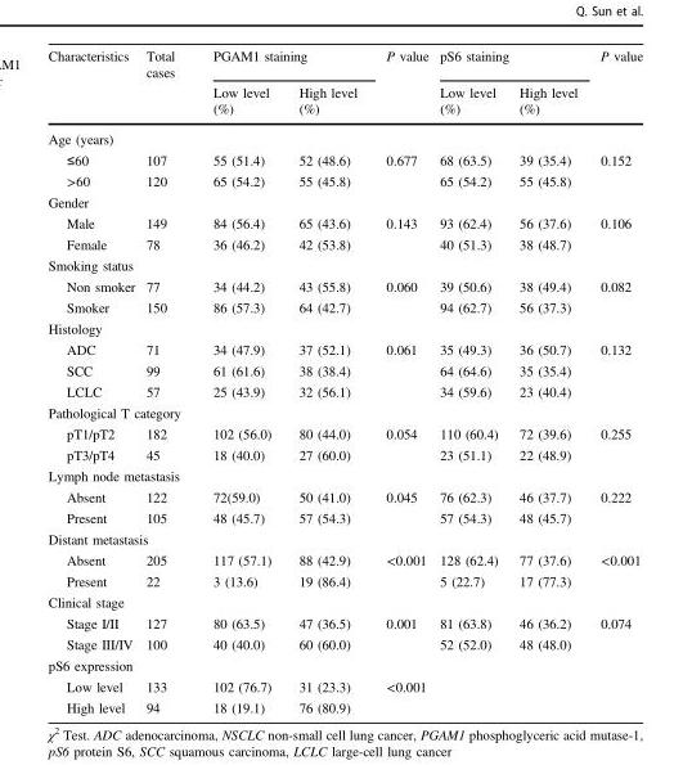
<table><thead><tr><td rowspan="2">Characteristics</td><td rowspan="2">Total cases</td><td colspan="2">PGAM1 staining</td><td rowspan="2">P value</td><td colspan="2">pS6 staining</td><td rowspan="2">P value</td></tr><tr><td>Low level (%)</td><td>High level (%)</td><td>Low level (%)</td><td>High level (%)</td></tr></thead><tbody><tr><td colspan="8">Age (years)</td></tr><tr><td>≤60</td><td>107</td><td>55 (51.4)</td><td>52 (48.6)</td><td>0.677</td><td>68 (63.5)</td><td>39 (35.4)</td><td>0.152</td></tr><tr><td>&gt;60</td><td>120</td><td>65 (54.2)</td><td>55 (45.8)</td><td></td><td>65 (54.2)</td><td>55 (45.8)</td><td></td></tr><tr><td colspan="8">Gender</td></tr><tr><td>Male</td><td>149</td><td>84 (56.4)</td><td>65 (43.6)</td><td>0.143</td><td>93 (62.4)</td><td>56 (37.6)</td><td>0.106</td></tr><tr><td>Female</td><td>78</td><td>36 (46.2)</td><td>42 (53.8)</td><td></td><td>40 (51.3)</td><td>38 (48.7)</td><td></td></tr><tr><td colspan="8">Smoking status</td></tr><tr><td>Non smoker</td><td>77</td><td>34 (44.2)</td><td>43 (55.8)</td><td>0.060</td><td>39 (50.6)</td><td>38 (49.4)</td><td>0.082</td></tr><tr><td>Smoker</td><td>150</td><td>86 (57.3)</td><td>64 (42.7)</td><td></td><td>94 (62.7)</td><td>56 (37.3)</td><td></td></tr><tr><td colspan="8">Histology</td></tr><tr><td>ADC</td><td>71</td><td>34 (47.9)</td><td>37 (52.1)</td><td>0.061</td><td>35 (49.3)</td><td>36 (50.7)</td><td>0.132</td></tr><tr><td>SCC</td><td>99</td><td>61 (61.6)</td><td>38 (38.4)</td><td></td><td>64 (64.6)</td><td>35 (35.4)</td><td></td></tr><tr><td>LCLC</td><td>57</td><td>25 (43.9)</td><td>32 (56.1)</td><td></td><td>34 (59.6)</td><td>23 (40.4)</td><td></td></tr><tr><td colspan="8">Pathological T category</td></tr><tr><td>pT1/pT2</td><td>182</td><td>102 (56.0)</td><td>80 (44.0)</td><td>0.054</td><td>110 (60.4)</td><td>72 (39.6)</td><td>0.255</td></tr><tr><td>pT3/pT4</td><td>45</td><td>18 (40.0)</td><td>27 (60.0)</td><td></td><td>23 (51.1)</td><td>22 (48.9)</td><td></td></tr><tr><td colspan="8">Lymph node metastasis</td></tr><tr><td>Absent</td><td>122</td><td>72(59.0)</td><td>50 (41.0)</td><td>0.045</td><td>76 (62.3)</td><td>46 (37.7)</td><td>0.222</td></tr><tr><td>Present</td><td>105</td><td>48 (45.7)</td><td>57 (54.3)</td><td></td><td>57 (54.3)</td><td>48 (45.7)</td><td></td></tr><tr><td colspan="8">Distant metastasis</td></tr><tr><td>Absent</td><td>205</td><td>117 (57.1)</td><td>88 (42.9)</td><td>&lt;0.001</td><td>128 (62.4)</td><td>77 (37.6)</td><td>&lt;0.001</td></tr><tr><td>Present</td><td>22</td><td>3 (13.6)</td><td>19 (86.4)</td><td></td><td>5 (22.7)</td><td>17 (77.3)</td><td></td></tr><tr><td colspan="8">Clinical stage</td></tr><tr><td>Stage I/II</td><td>127</td><td>80 (63.5)</td><td>47 (36.5)</td><td>0.001</td><td>81 (63.8)</td><td>46 (36.2)</td><td>0.074</td></tr><tr><td>Stage III/IV</td><td>100</td><td>40 (40.0)</td><td>60 (60.0)</td><td></td><td>52 (52.0)</td><td>48 (48.0)</td><td></td></tr><tr><td colspan="8">pS6 expression</td></tr><tr><td>Low level</td><td>133</td><td>102 (76.7)</td><td>31 (23.3)</td><td>&lt;0.001</td><td></td><td></td><td></td></tr><tr><td>High level</td><td>94</td><td>18 (19.1)</td><td>76 (80.9)</td><td></td><td></td><td></td><td></td></tr></tbody></table>